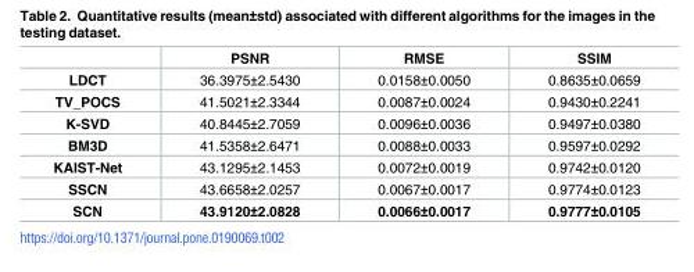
<table><thead><tr><td></td><td>PSNR</td><td>RMSE</td><td>SSIM</td></tr></thead><tbody><tr><td>LDCT</td><td>36.3975±2.5430</td><td>0.0158±0.0050</td><td>0.8635±0.0659</td></tr><tr><td>TV_POCS</td><td>41.5021±2.3344</td><td>0.0087±0.0024</td><td>0.9430±0.2241</td></tr><tr><td>K-SVD</td><td>40.8445±2.7059</td><td>0.0096±0.0036</td><td>0.9497±0.0380</td></tr><tr><td>BM3D</td><td>41.5358±2.6471</td><td>0.0088±0.0033</td><td>0.9597±0.0292</td></tr><tr><td>KAIST-Net</td><td>43.1295±2.1453</td><td>0.0072±0.0019</td><td>0.9742±0.0120</td></tr><tr><td>SSCN</td><td>43.6658±2.0257</td><td>0.0067±0.0017</td><td>0.9774±0.0123</td></tr><tr><td>SCN</td><td>43.9120±2.0828</td><td>0.0066±0.0017</td><td>0.9777±0.0105</td></tr></tbody></table>